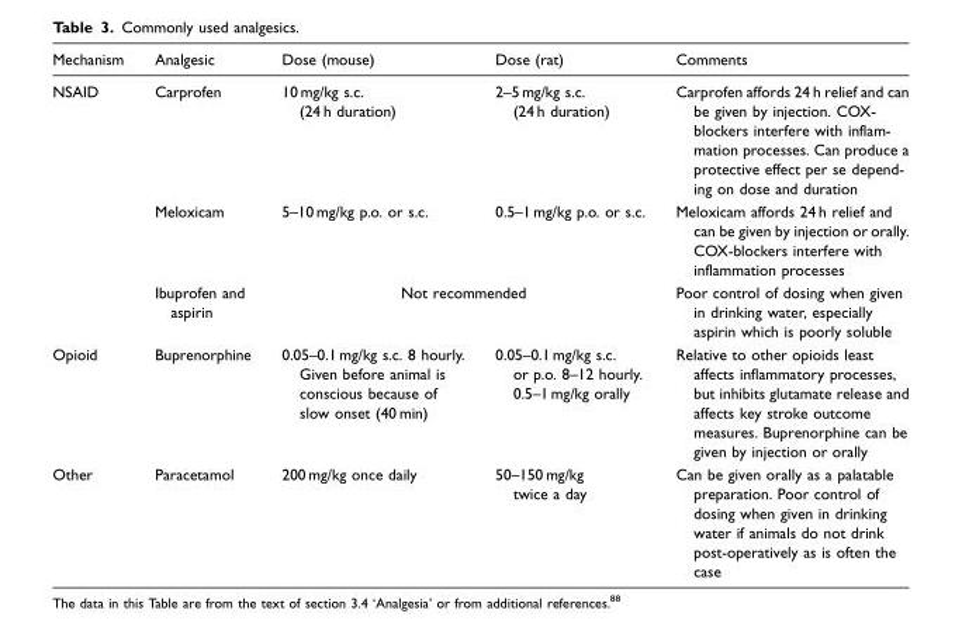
<table><thead><tr><td>Mechanism</td><td>Analgesic</td><td>Dose (mouse)</td><td>Dose (rat)</td><td>Comments</td></tr></thead><tbody><tr><td rowspan="3">NSAID</td><td>Carprofen</td><td>10 mg/kg s.c. (24 h duration)</td><td>2–5 mg/kg s.c. (24 h duration)</td><td>Carprofen affords 24 h relief and can be given by injection. COX- blockers interfere with inflam- mation processes. Can produce a protective effect per se depend- ing on dose and duration</td></tr><tr><td>Meloxicam</td><td>5–10 mg/kg p.o. or s.c.</td><td>0.5–1 mg/kg p.o. or s.c.</td><td>Meloxicam affords 24 h relief and can be given by injection or orally. COX-blockers interfere with inflammation processes</td></tr><tr><td>Ibuprofen and aspirin</td><td colspan="2">Not recommended</td><td>Poor control of dosing when given in drinking water, especially aspirin which is poorly soluble</td></tr><tr><td>Opioid</td><td>Buprenorphine</td><td>0.05–0.1 mg/kg s.c. 8 hourly. Given before animal is conscious because of slow onset (40 min)</td><td>0.05–0.1 mg/kg s.c. or p.o. 8–12 hourly. 0.5–1 mg/kg orally</td><td>Relative to other opioids least affects inflammatory processes, but inhibits glutamate release and affects key stroke outcome measures. Buprenorphine can be given by injection or orally</td></tr><tr><td>Other</td><td>Paracetamol</td><td>200 mg/kg once daily</td><td>50–150 mg/kg twice a day</td><td>Can be given orally as a palatable preparation. Poor control of dosing when given in drinking water if animals do not drink post-operatively as is often the case</td></tr></tbody></table>